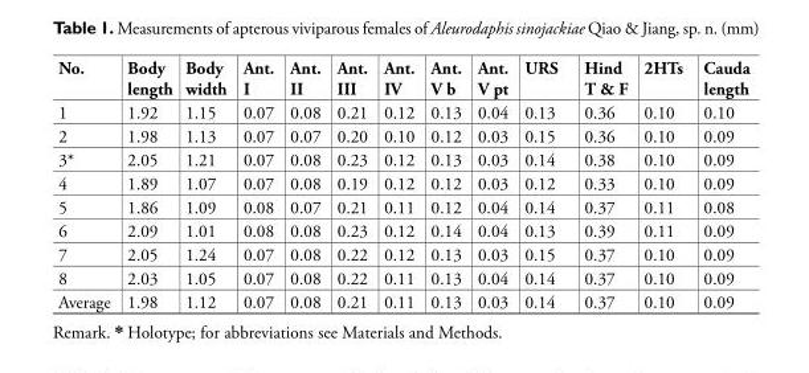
<table><thead><tr><td>No.</td><td>Body length</td><td>Body width</td><td>Ant. I</td><td>Ant. II</td><td>Ant. III</td><td>Ant. IV</td><td>Ant. V b</td><td>Ant. V pt</td><td>URS</td><td>Hind T &amp; F</td><td>2HTs</td><td>Cauda length</td></tr></thead><tbody><tr><td>1</td><td>1.92</td><td>1.15</td><td>0.07</td><td>0.08</td><td>0.21</td><td>0.12</td><td>0.13</td><td>0.04</td><td>0.13</td><td>0.36</td><td>0.10</td><td>0.10</td></tr><tr><td>2</td><td>1.98</td><td>1.13</td><td>0.07</td><td>0.07</td><td>0.20</td><td>0.10</td><td>0.12</td><td>0.03</td><td>0.15</td><td>0.36</td><td>0.10</td><td>0.09</td></tr><tr><td>3*</td><td>2.05</td><td>1.21</td><td>0.07</td><td>0.08</td><td>0.23</td><td>0.12</td><td>0.13</td><td>0.03</td><td>0.14</td><td>0.38</td><td>0.10</td><td>0.09</td></tr><tr><td>4</td><td>1.89</td><td>1.07</td><td>0.07</td><td>0.08</td><td>0.19</td><td>0.12</td><td>0.12</td><td>0.03</td><td>0.12</td><td>0.33</td><td>0.10</td><td>0.09</td></tr><tr><td>5</td><td>1.86</td><td>1.09</td><td>0.08</td><td>0.07</td><td>0.21</td><td>0.11</td><td>0.12</td><td>0.04</td><td>0.14</td><td>0.37</td><td>0.11</td><td>0.08</td></tr><tr><td>6</td><td>2.09</td><td>1.01</td><td>0.08</td><td>0.08</td><td>0.23</td><td>0.12</td><td>0.14</td><td>0.04</td><td>0.13</td><td>0.39</td><td>0.11</td><td>0.09</td></tr><tr><td>7</td><td>2.05</td><td>1.24</td><td>0.07</td><td>0.08</td><td>0.22</td><td>0.12</td><td>0.13</td><td>0.03</td><td>0.15</td><td>0.37</td><td>0.10</td><td>0.09</td></tr><tr><td>8</td><td>2.03</td><td>1.05</td><td>0.07</td><td>0.08</td><td>0.22</td><td>0.11</td><td>0.13</td><td>0.04</td><td>0.14</td><td>0.37</td><td>0.10</td><td>0.09</td></tr><tr><td>Average</td><td>1.98</td><td>1.12</td><td>0.07</td><td>0.08</td><td>0.21</td><td>0.11</td><td>0.13</td><td>0.03</td><td>0.14</td><td>0.37</td><td>0.10</td><td>0.09</td></tr></tbody></table>